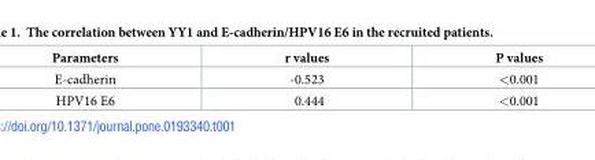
<table><thead><tr><td>Parameters</td><td>r values</td><td>P values</td></tr></thead><tbody><tr><td>E-cadherin</td><td>-0.523</td><td>&lt;0.001</td></tr><tr><td>HPV16 E6</td><td>0.444</td><td>&lt;0.001</td></tr></tbody></table>